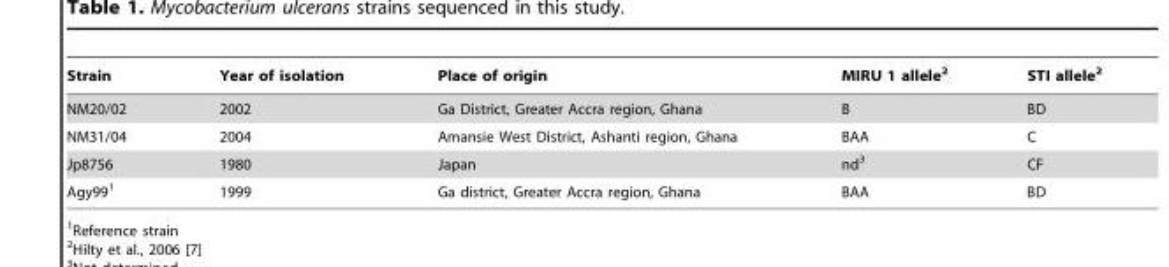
<table><thead><tr><td>Strain</td><td>Year of isolation</td><td>Place of origin</td><td>MIRU 1 allele<sup>2</sup></td><td>STI allele<sup>2</sup></td></tr></thead><tbody><tr><td>NM20/02</td><td>2002</td><td>Ga District, Greater Accra region, Ghana</td><td>B</td><td>BD</td></tr><tr><td>NM31/04</td><td>2004</td><td>Amansie West District, Ashanti region, Ghana</td><td>BAA</td><td>C</td></tr><tr><td>Jp8756</td><td>1980</td><td>Japan</td><td>nd<sup>3</sup></td><td>CF</td></tr><tr><td>Agy99<sup>1</sup></td><td>1999</td><td>Ga district, Greater Accra region, Ghana</td><td>BAA</td><td>BD</td></tr></tbody></table>